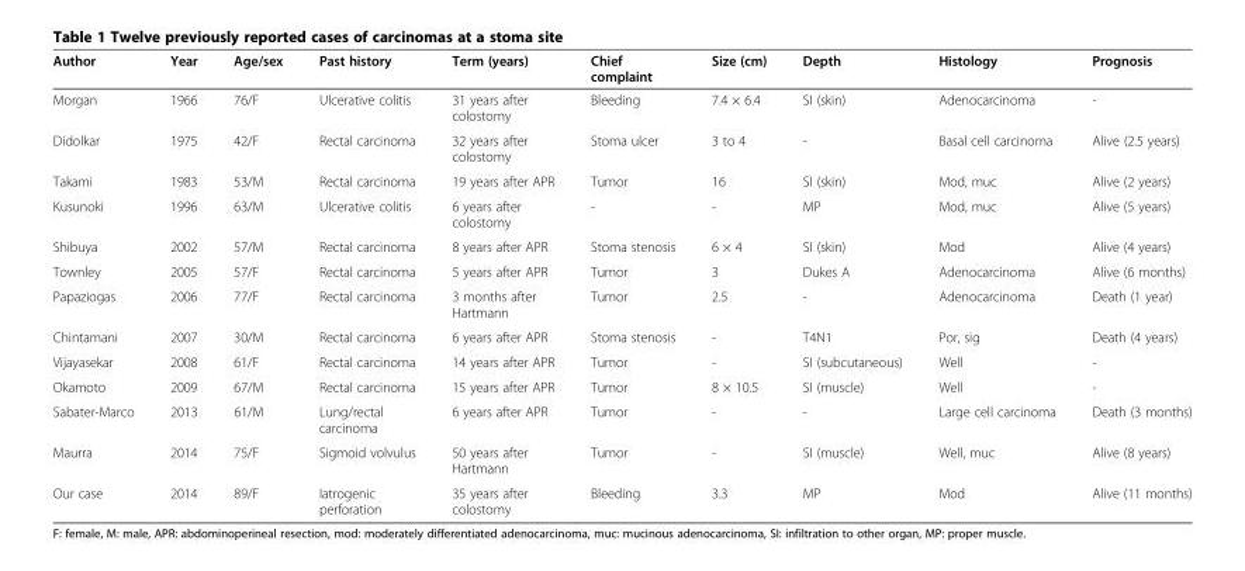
<table><thead><tr><td>Author</td><td>Year</td><td>Age/sex</td><td>Past history</td><td>Term (years)</td><td>Chief complaint</td><td>Size (cm)</td><td>Depth</td><td>Histology</td><td>Prognosis</td></tr></thead><tbody><tr><td>Morgan</td><td>1966</td><td>76/F</td><td>Ulcerative colitis</td><td>31 years after colostomy</td><td>Bleeding</td><td>7.4 × 6.4</td><td>SI (skin)</td><td>Adenocarcinoma</td><td>-</td></tr><tr><td>Didolkar</td><td>1975</td><td>42/F</td><td>Rectal carcinoma</td><td>32 years after colostomy</td><td>Stoma ulcer</td><td>3 to 4</td><td>-</td><td>Basal cell carcinoma</td><td>Alive (2.5 years)</td></tr><tr><td>Takami</td><td>1983</td><td>53/M</td><td>Rectal carcinoma</td><td>19 years after APR</td><td>Tumor</td><td>16</td><td>SI (skin)</td><td>Mod, muc</td><td>Alive (2 years)</td></tr><tr><td>Kusunoki</td><td>1996</td><td>63/M</td><td>Ulcerative colitis</td><td>6 years after colostomy</td><td>-</td><td>-</td><td>MP</td><td>Mod, muc</td><td>Alive (5 years)</td></tr><tr><td>Shibuya</td><td>2002</td><td>57/M</td><td>Rectal carcinoma</td><td>8 years after APR</td><td>Stoma stenosis</td><td>6 × 4</td><td>SI (skin)</td><td>Mod</td><td>Alive (4 years)</td></tr><tr><td>Townley</td><td>2005</td><td>57/F</td><td>Rectal carcinoma</td><td>5 years after APR</td><td>Tumor</td><td>3</td><td>Dukes A</td><td>Adenocarcinoma</td><td>Alive (6 months)</td></tr><tr><td>Papaziogas</td><td>2006</td><td>77/F</td><td>Rectal carcinoma</td><td>3 months after Hartmann</td><td>Tumor</td><td>2.5</td><td>-</td><td>Adenocarcinoma</td><td>Death (1 year)</td></tr><tr><td>Chintamani</td><td>2007</td><td>30/M</td><td>Rectal carcinoma</td><td>6 years after APR</td><td>Stoma stenosis</td><td>-</td><td>T4N1</td><td>Por, sig</td><td>Death (4 years)</td></tr><tr><td>Vijayasekar</td><td>2008</td><td>61/F</td><td>Rectal carcinoma</td><td>14 years after APR</td><td>Tumor</td><td>-</td><td>SI (subcutaneous)</td><td>Well</td><td>-</td></tr><tr><td>Okamoto</td><td>2009</td><td>67/M</td><td>Rectal carcinoma</td><td>15 years after APR</td><td>Tumor</td><td>8 × 10.5</td><td>SI (muscle)</td><td>Well</td><td>-</td></tr><tr><td>Sabater-Marco</td><td>2013</td><td>61/M</td><td>Lung/rectal carcinoma</td><td>6 years after APR</td><td>Tumor</td><td>-</td><td>-</td><td>Large cell carcinoma</td><td>Death (3 months)</td></tr><tr><td>Maurra</td><td>2014</td><td>75/F</td><td>Sigmoid volvulus</td><td>50 years after Hartmann</td><td>Tumor</td><td>-</td><td>SI (muscle)</td><td>Well, muc</td><td>Alive (8 years)</td></tr><tr><td>Our case</td><td>2014</td><td>89/F</td><td>Iatrogenic perforation</td><td>35 years after colostomy</td><td>Bleeding</td><td>3.3</td><td>MP</td><td>Mod</td><td>Alive (11 months)</td></tr></tbody></table>